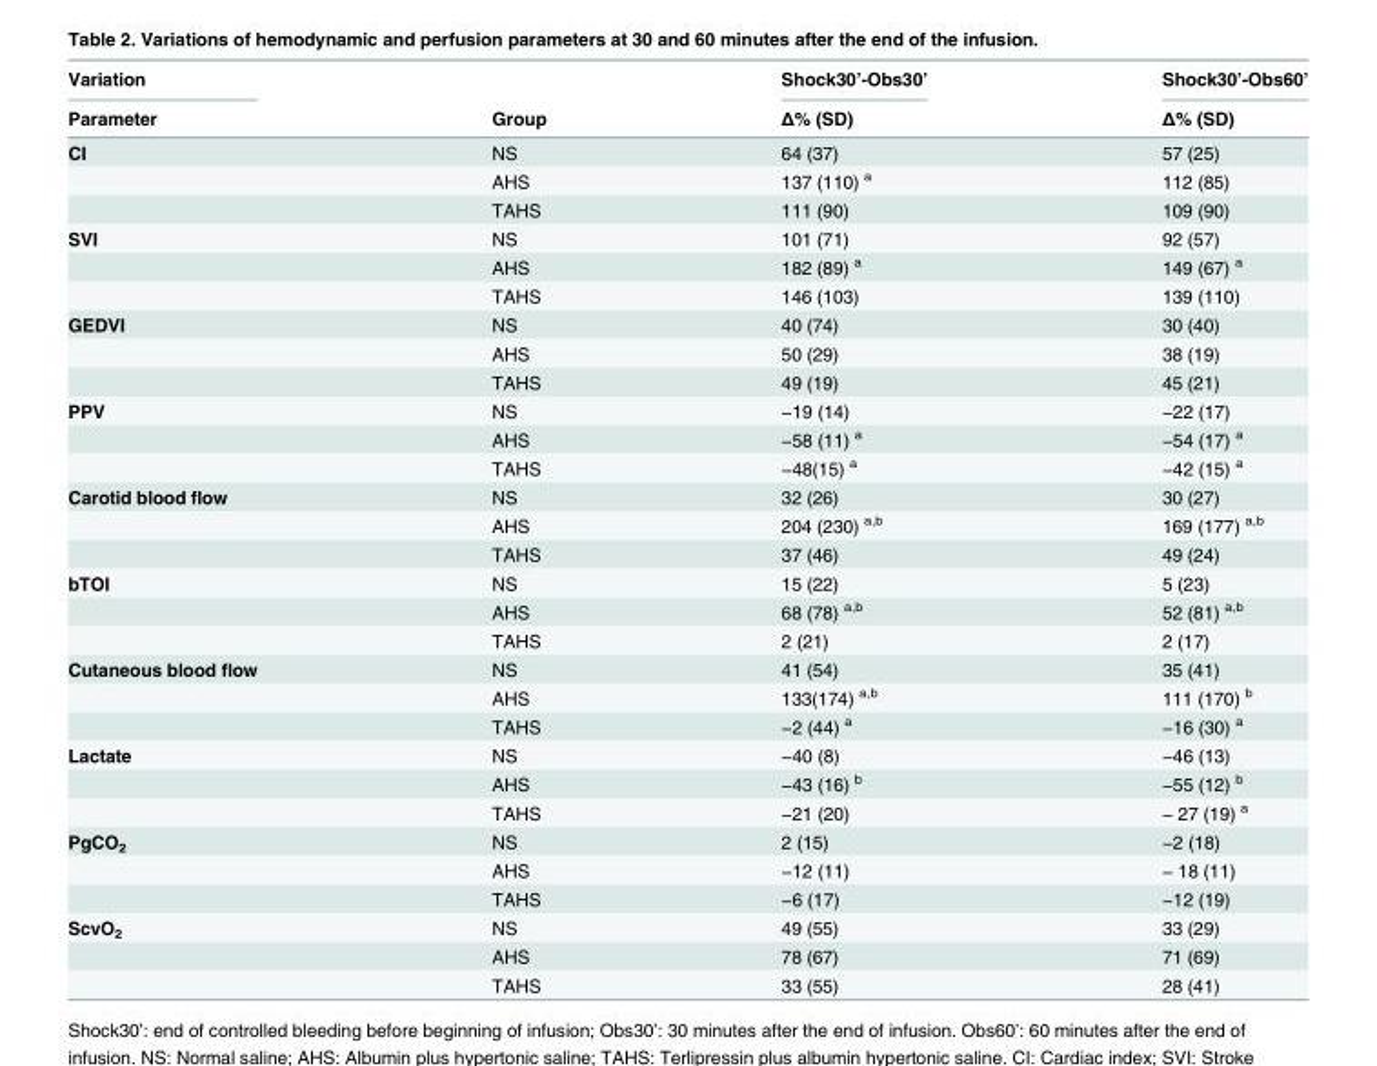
<table><thead><tr><td rowspan="2">Variation Parameter</td><td rowspan="2">Group</td><td rowspan="2">Shock30’-Obs30’ Δ% (SD)</td><td rowspan="2">Shock30’-Obs60’ Δ% (SD)</td></tr><tr></tr></thead><tbody><tr><td rowspan="3">CI</td><td>NS</td><td>64 (37)</td><td>57 (25)</td></tr><tr><td>AHS</td><td>137 (110) <sup>a</sup></td><td>112 (85)</td></tr><tr><td>TAHS</td><td>111 (90)</td><td>109 (90)</td></tr><tr><td rowspan="3">SVI</td><td>NS</td><td>101 (71)</td><td>92 (57)</td></tr><tr><td>AHS</td><td>182 (89) <sup>a</sup></td><td>149 (67) <sup>a</sup></td></tr><tr><td>TAHS</td><td>146 (103)</td><td>139 (110)</td></tr><tr><td rowspan="3">GEDVI</td><td>NS</td><td>40 (74)</td><td>30 (40)</td></tr><tr><td>AHS</td><td>50 (29)</td><td>38 (19)</td></tr><tr><td>TAHS</td><td>49 (19)</td><td>45 (21)</td></tr><tr><td rowspan="3">PPV</td><td>NS</td><td>−19 (14)</td><td>−22 (17)</td></tr><tr><td>AHS</td><td>−58 (11) <sup>a</sup></td><td>−54 (17) <sup>a</sup></td></tr><tr><td>TAHS</td><td>−48(15) <sup>a</sup></td><td>−42 (15) <sup>a</sup></td></tr><tr><td rowspan="3">Carotid blood flow</td><td>NS</td><td>32 (26)</td><td>30 (27)</td></tr><tr><td>AHS</td><td>204 (230) <sup>a,b</sup></td><td>169 (177) <sup>a,b</sup></td></tr><tr><td>TAHS</td><td>37 (46)</td><td>49 (24)</td></tr><tr><td rowspan="3">bTOI</td><td>NS</td><td>15 (22)</td><td>5 (23)</td></tr><tr><td>AHS</td><td>68 (78) <sup>a,b</sup></td><td>52 (81) <sup>a,b</sup></td></tr><tr><td>TAHS</td><td>2 (21)</td><td>2 (17)</td></tr><tr><td rowspan="3">Cutaneous blood flow</td><td>NS</td><td>41 (54)</td><td>35 (41)</td></tr><tr><td>AHS</td><td>133(174) <sup>a,b</sup></td><td>111 (170) <sup>b</sup></td></tr><tr><td>TAHS</td><td>−2 (44) <sup>a</sup></td><td>−16 (30) <sup>a</sup></td></tr><tr><td rowspan="3">Lactate</td><td>NS</td><td>−40 (8)</td><td>−46 (13)</td></tr><tr><td>AHS</td><td>−43 (16) <sup>b</sup></td><td>−55 (12) <sup>b</sup></td></tr><tr><td>TAHS</td><td>−21 (20)</td><td>− 27 (19) <sup>a</sup></td></tr><tr><td rowspan="3">PgCO<sub>2</sub></td><td>NS</td><td>2 (15)</td><td>−2 (18)</td></tr><tr><td>AHS</td><td>−12 (11)</td><td>− 18 (11)</td></tr><tr><td>TAHS</td><td>−6 (17)</td><td>−12 (19)</td></tr><tr><td rowspan="3">ScvO<sub>2</sub></td><td>NS</td><td>49 (55)</td><td>33 (29)</td></tr><tr><td>AHS</td><td>78 (67)</td><td>71 (69)</td></tr><tr><td>TAHS</td><td>33 (55)</td><td>28 (41)</td></tr></tbody></table>